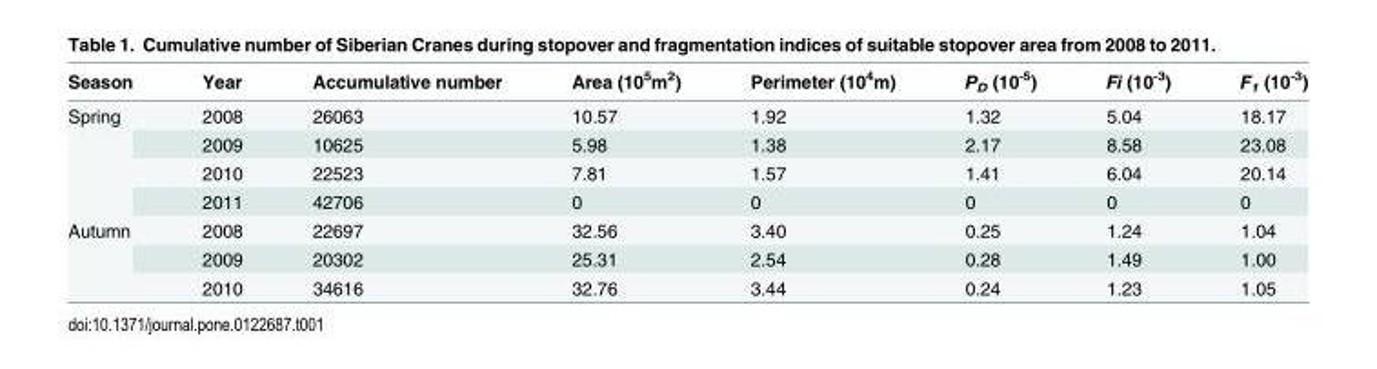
<table><thead><tr><td>Season</td><td>Year</td><td>Accumulative number</td><td>Area (10<sup>5</sup>m<sup>2</sup>)</td><td>Perimeter (10<sup>4</sup>m)</td><td>P<sub>D</sub> (10<sup>-5</sup>)</td><td>Fi (10<sup>-3</sup>)</td><td>F<sub>1</sub> (10<sup>-3</sup>)</td></tr></thead><tbody><tr><td rowspan="4">Spring</td><td>2008</td><td>26063</td><td>10.57</td><td>1.92</td><td>1.32</td><td>5.04</td><td>18.17</td></tr><tr><td>2009</td><td>10625</td><td>5.98</td><td>1.38</td><td>2.17</td><td>8.58</td><td>23.08</td></tr><tr><td>2010</td><td>22523</td><td>7.81</td><td>1.57</td><td>1.41</td><td>6.04</td><td>20.14</td></tr><tr><td>2011</td><td>42706</td><td>0</td><td>0</td><td>0</td><td>0</td><td>0</td></tr><tr><td rowspan="3">Autumn</td><td>2008</td><td>22697</td><td>32.56</td><td>3.40</td><td>0.25</td><td>1.24</td><td>1.04</td></tr><tr><td>2009</td><td>20302</td><td>25.31</td><td>2.54</td><td>0.28</td><td>1.49</td><td>1.00</td></tr><tr><td>2010</td><td>34616</td><td>32.76</td><td>3.44</td><td>0.24</td><td>1.23</td><td>1.05</td></tr></tbody></table>